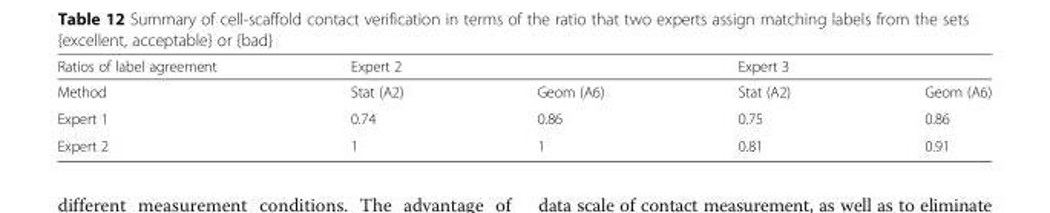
<table><thead><tr><td rowspan="2">Ratios of label agreement Method</td><td colspan="2">Expert 2</td><td colspan="2">Expert 3</td></tr><tr><td>Stat (A2)</td><td>Geom (A6)</td><td>Stat (A2)</td><td>Geom (A6)</td></tr></thead><tbody><tr><td>Expert 1</td><td>0.74</td><td>0.86</td><td>0.75</td><td>0.86</td></tr><tr><td>Expert 2</td><td>1</td><td>1</td><td>0.81</td><td>0.91</td></tr></tbody></table>